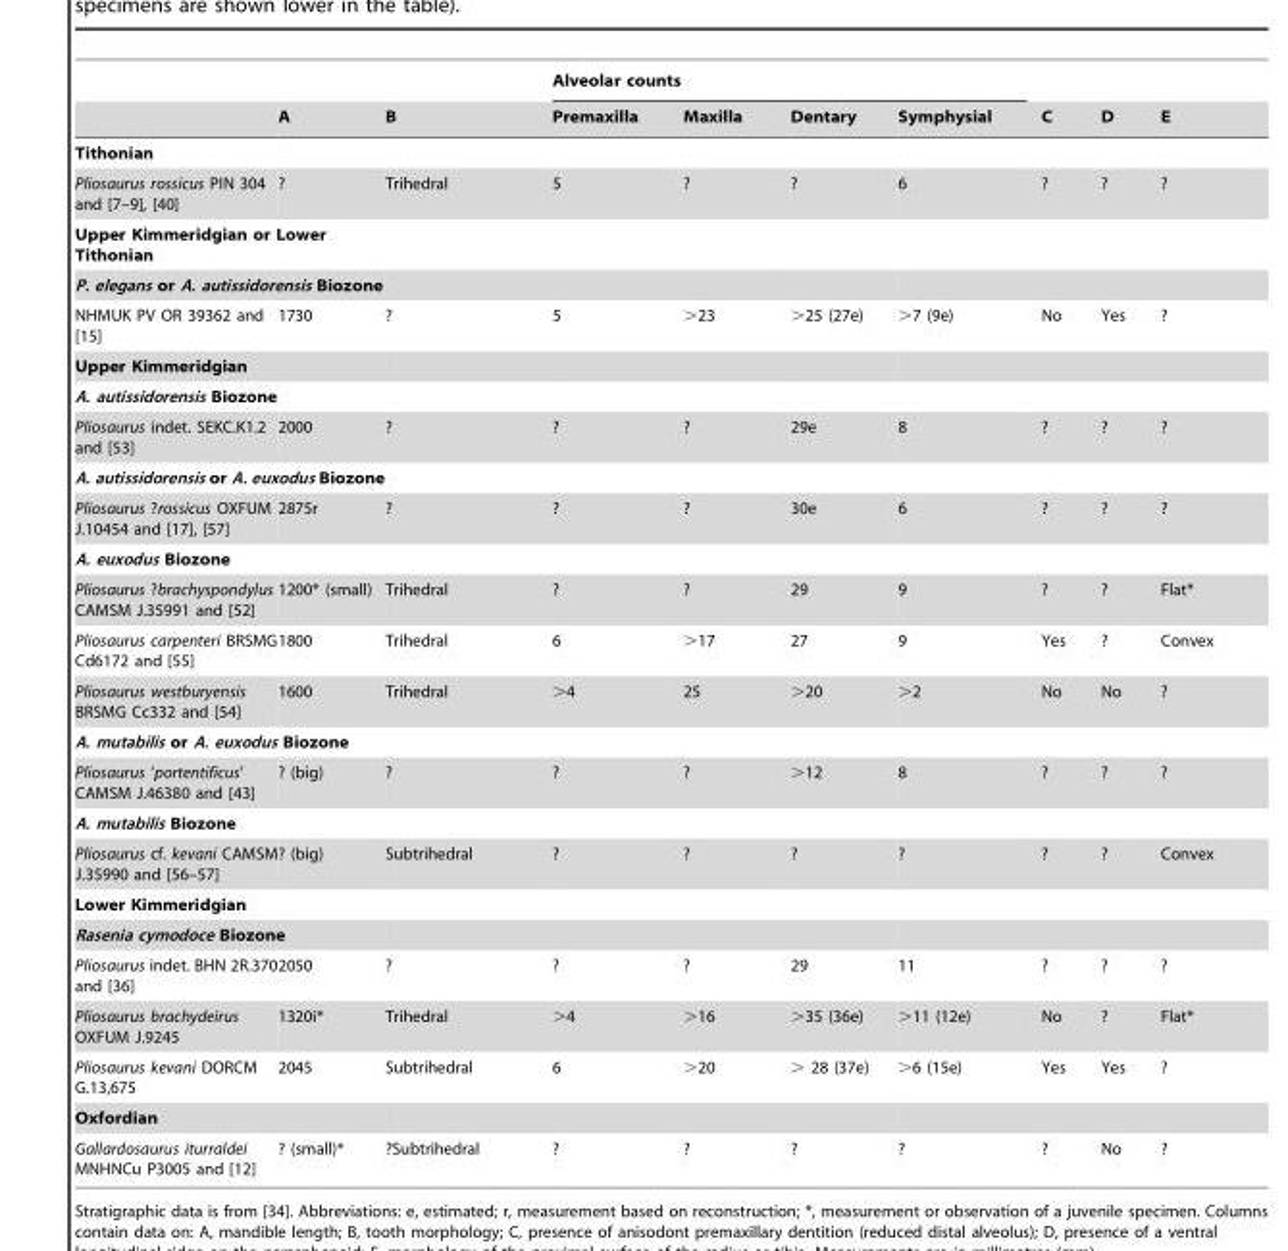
<table><thead><tr><td rowspan="2"></td><td rowspan="2">A</td><td rowspan="2">B</td><td colspan="4">Alveolar counts</td><td rowspan="2">C</td><td rowspan="2">D</td><td rowspan="2">E</td></tr><tr><td>Premaxilla</td><td>Maxilla</td><td>Dentary</td><td>Symphysial</td></tr></thead><tbody><tr><td colspan="10">Tithonian</td></tr><tr><td>Pliosaurus rossicus PIN 304 and [7–9], [40]</td><td>?</td><td>Trihedral</td><td>5</td><td>?</td><td>?</td><td>6</td><td>?</td><td>?</td><td>?</td></tr><tr><td colspan="10">Upper Kimmeridgian or Lower Tithonian</td></tr><tr><td colspan="10">P. elegans or A. autissidorensis Biozone</td></tr><tr><td>NHMUK PV OR 39362 and [15]</td><td>1730</td><td>?</td><td>5</td><td>&gt;23</td><td>&gt;25 (27e)</td><td>&gt;7 (9e)</td><td>No</td><td>Yes</td><td>?</td></tr><tr><td colspan="10">Upper Kimmeridgian</td></tr><tr><td colspan="10">A. autissidorensis Biozone</td></tr><tr><td>Pliosaurus indet. SEKC.K1.2 and [53]</td><td>2000</td><td>?</td><td>?</td><td>?</td><td>29e</td><td>8</td><td>?</td><td>?</td><td>?</td></tr><tr><td colspan="10">A. autissidorensis or A. euxodus Biozone</td></tr><tr><td>Pliosaurus ?rossicus OXFUM J.10454 and [17], [57]</td><td>2875r</td><td>?</td><td>?</td><td>?</td><td>30e</td><td>6</td><td>?</td><td>?</td><td>?</td></tr><tr><td colspan="10">A. euxodus Biozone</td></tr><tr><td>Pliosaurus ?brachyspondylus CAMSM J.35991 and [52]</td><td>1200* (small)</td><td>Trihedral</td><td>?</td><td>?</td><td>29</td><td>9</td><td>?</td><td>?</td><td>Flat*</td></tr><tr><td>Pliosaurus carpenteri BRSMG Cd6172 and [55]</td><td>1800</td><td>Trihedral</td><td>6</td><td>&gt;17</td><td>27</td><td>9</td><td>Yes</td><td>?</td><td>Convex</td></tr><tr><td>Pliosaurus westburyensis BRSMG Cc332 and [54]</td><td>1600</td><td>Trihedral</td><td>&gt;4</td><td>25</td><td>&gt;20</td><td>&gt;2</td><td>No</td><td>No</td><td>?</td></tr><tr><td colspan="10">A. mutabilis or A. euxodus Biozone</td></tr><tr><td>Pliosaurus ‘portentificus’ CAMSM J.46380 and [43]</td><td>? (big)</td><td>?</td><td>?</td><td>?</td><td>&gt;12</td><td>8</td><td>?</td><td>?</td><td>?</td></tr><tr><td colspan="10">A. mutabilis Biozone</td></tr><tr><td>Pliosaurus cf. kevani CAMSM J.35990 and [56–57]</td><td>? (big)</td><td>Subtrihedral</td><td>?</td><td>?</td><td>?</td><td>?</td><td>?</td><td>?</td><td>Convex</td></tr><tr><td colspan="10">Lower Kimmeridgian</td></tr><tr><td colspan="10">Rasenia cymodoce Biozone</td></tr><tr><td>Pliosaurus indet. BHN 2R.370 and [36]</td><td>2050</td><td>?</td><td>?</td><td>?</td><td>29</td><td>11</td><td>?</td><td>?</td><td>?</td></tr><tr><td>Pliosaurus brachydeirus OXFUM J.9245</td><td>1320i*</td><td>Trihedral</td><td>&gt;4</td><td>&gt;16</td><td>&gt;35 (36e)</td><td>&gt;11 (12e)</td><td>No</td><td>?</td><td>Flat*</td></tr><tr><td>Pliosaurus kevani DORCM G.13,675</td><td>2045</td><td>Subtrihedral</td><td>6</td><td>&gt;20</td><td>&gt; 28 (37e)</td><td>&gt;6 (15e)</td><td>Yes</td><td>Yes</td><td>?</td></tr><tr><td colspan="10">Oxfordian</td></tr><tr><td>Gallardosaurus iturraldei MNHNCu P3005 and [12]</td><td>? (small)*</td><td>?Subtrihedral</td><td>?</td><td>?</td><td>?</td><td>?</td><td>?</td><td>No</td><td>?</td></tr></tbody></table>